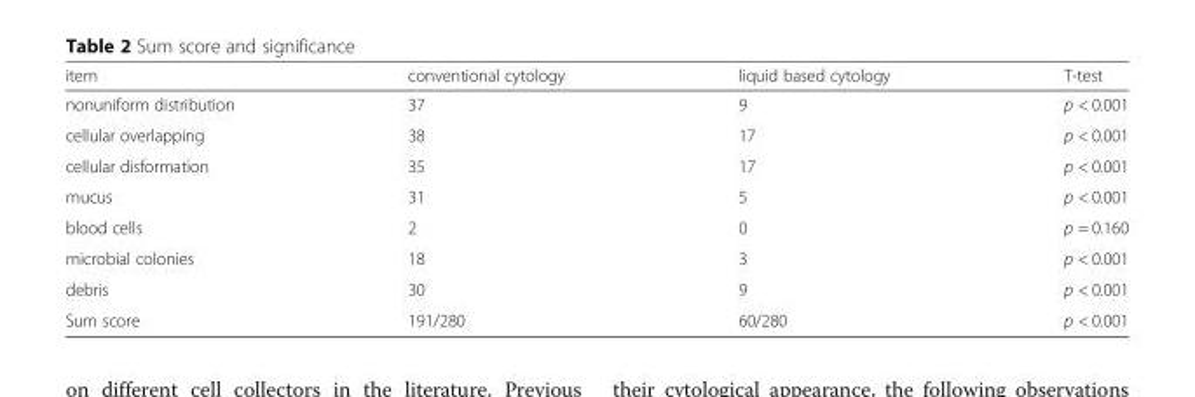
<table><thead><tr><td>item</td><td>conventional cytology</td><td>liquid based cytology</td><td>T-test</td></tr></thead><tbody><tr><td>nonuniform distribution</td><td>37</td><td>9</td><td>p &lt; 0.001</td></tr><tr><td>cellular overlapping</td><td>38</td><td>17</td><td>p &lt; 0.001</td></tr><tr><td>cellular disformation</td><td>35</td><td>17</td><td>p &lt; 0.001</td></tr><tr><td>mucus</td><td>31</td><td>5</td><td>p &lt; 0.001</td></tr><tr><td>blood cells</td><td>2</td><td>0</td><td>p = 0.160</td></tr><tr><td>microbial colonies</td><td>18</td><td>3</td><td>p &lt; 0.001</td></tr><tr><td>debris</td><td>30</td><td>9</td><td>p &lt; 0.001</td></tr><tr><td>Sum score</td><td>191/280</td><td>60/280</td><td>p &lt; 0.001</td></tr></tbody></table>